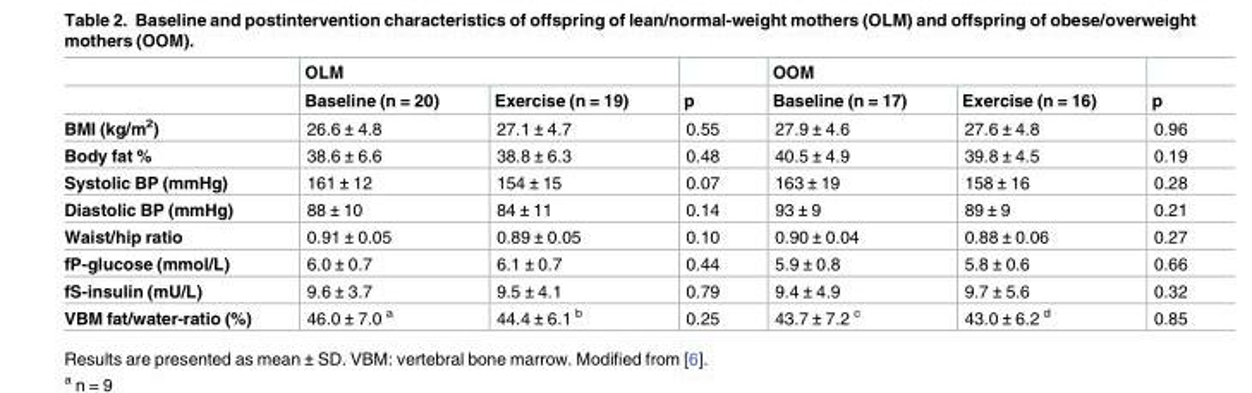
<table><thead><tr><td rowspan="2"></td><td colspan="2">OLM</td><td rowspan="2">p</td><td colspan="2">OOM</td><td rowspan="2">p</td></tr><tr><td>Baseline (n = 20)</td><td>Exercise (n = 19)</td><td>Baseline (n = 17)</td><td>Exercise (n = 16)</td></tr></thead><tbody><tr><td>BMI (kg/m<sup>2</sup>)</td><td>26.6 ± 4.8</td><td>27.1 ± 4.7</td><td>0.55</td><td>27.9 ± 4.6</td><td>27.6 ± 4.8</td><td>0.96</td></tr><tr><td>Body fat %</td><td>38.6 ± 6.6</td><td>38.8 ± 6.3</td><td>0.48</td><td>40.5 ± 4.9</td><td>39.8 ± 4.5</td><td>0.19</td></tr><tr><td>Systolic BP (mmHg)</td><td>161 ± 12</td><td>154 ± 15</td><td>0.07</td><td>163 ± 19</td><td>158 ± 16</td><td>0.28</td></tr><tr><td>Diastolic BP (mmHg)</td><td>88 ± 10</td><td>84 ± 11</td><td>0.14</td><td>93 ± 9</td><td>89 ± 9</td><td>0.21</td></tr><tr><td>Waist/hip ratio</td><td>0.91 ± 0.05</td><td>0.89 ± 0.05</td><td>0.10</td><td>0.90 ± 0.04</td><td>0.88 ± 0.06</td><td>0.27</td></tr><tr><td>fP-glucose (mmol/L)</td><td>6.0 ± 0.7</td><td>6.1 ± 0.7</td><td>0.44</td><td>5.9 ± 0.8</td><td>5.8 ± 0.6</td><td>0.66</td></tr><tr><td>fS-insulin (mU/L)</td><td>9.6 ± 3.7</td><td>9.5 ± 4.1</td><td>0.79</td><td>9.4 ± 4.9</td><td>9.7 ± 5.6</td><td>0.32</td></tr><tr><td>VBM fat/water-ratio (%)</td><td>46.0 ± 7.0 <sup>a</sup></td><td>44.4 ± 6.1 <sup>b</sup></td><td>0.25</td><td>43.7 ± 7.2 <sup>c</sup></td><td>43.0 ± 6.2 <sup>d</sup></td><td>0.85</td></tr></tbody></table>